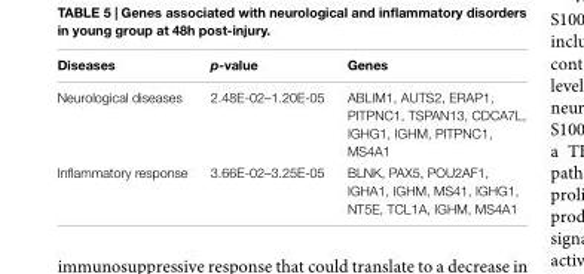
<table><thead><tr><td>Diseases</td><td>p-value</td><td>Genes</td></tr></thead><tbody><tr><td>Neurological diseases</td><td>2.48E-02–1.20E-05</td><td>ABLIM1, AUTS2, ERAP1, PITPNC1, TSPAN13, CDCA7L, IGHG1, IGHM, PITPNC1, MS4A1</td></tr><tr><td>Inflammatory response</td><td>3.66E-02–3.25E-05</td><td>BLNK, PAX5, POU2AF1, IGHA1, IGHM, MS41, IGHG1, NT5E, TCL1A, IGHM, MS4A1</td></tr></tbody></table>